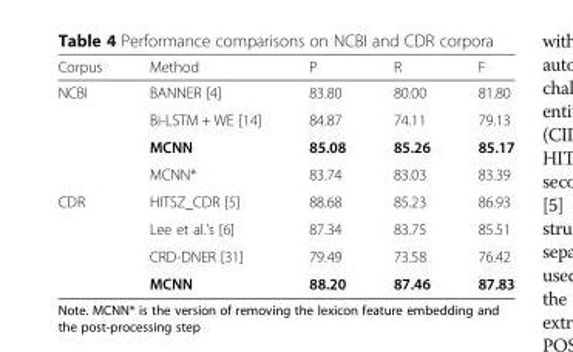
<table><thead><tr><td>Corpus</td><td>Method</td><td>P</td><td>R</td><td>F</td></tr></thead><tbody><tr><td rowspan="4">NCBI</td><td>BANNER [4]</td><td>83.80</td><td>80.00</td><td>81.80</td></tr><tr><td>Bi-LSTM + WE [14]</td><td>84.87</td><td>74.11</td><td>79.13</td></tr><tr><td>MCNN</td><td>85.08</td><td>85.26</td><td>85.17</td></tr><tr><td>MCNN*</td><td>83.74</td><td>83.03</td><td>83.39</td></tr><tr><td rowspan="4">CDR</td><td>HITSZ_CDR [5]</td><td>88.68</td><td>85.23</td><td>86.93</td></tr><tr><td>Lee et al.’s [6]</td><td>87.34</td><td>83.75</td><td>85.51</td></tr><tr><td>CRD-DNER [31]</td><td>79.49</td><td>73.58</td><td>76.42</td></tr><tr><td>MCNN</td><td>88.20</td><td>87.46</td><td>87.83</td></tr></tbody></table>